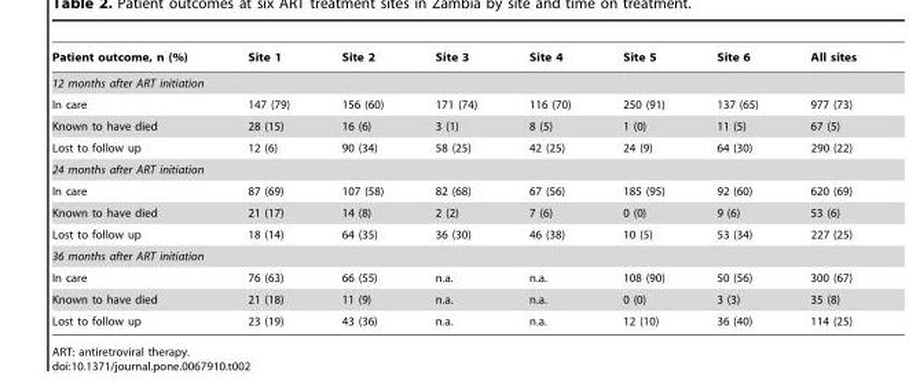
<table><thead><tr><td>Patient outcome, n (%)</td><td>Site 1</td><td>Site 2</td><td>Site 3</td><td>Site 4</td><td>Site 5</td><td>Site 6</td><td>All sites</td></tr></thead><tbody><tr><td colspan="8">12 months after ART initiation</td></tr><tr><td>In care</td><td>147 (79)</td><td>156 (60)</td><td>171 (74)</td><td>116 (70)</td><td>250 (91)</td><td>137 (65)</td><td>977 (73)</td></tr><tr><td>Known to have died</td><td>28 (15)</td><td>16 (6)</td><td>3 (1)</td><td>8 (5)</td><td>1 (0)</td><td>11 (5)</td><td>67 (5)</td></tr><tr><td>Lost to follow up</td><td>12 (6)</td><td>90 (34)</td><td>58 (25)</td><td>42 (25)</td><td>24 (9)</td><td>64 (30)</td><td>290 (22)</td></tr><tr><td colspan="8">24 months after ART initiation</td></tr><tr><td>In care</td><td>87 (69)</td><td>107 (58)</td><td>82 (68)</td><td>67 (56)</td><td>185 (95)</td><td>92 (60)</td><td>620 (69)</td></tr><tr><td>Known to have died</td><td>21 (17)</td><td>14 (8)</td><td>2 (2)</td><td>7 (6)</td><td>0 (0)</td><td>9 (6)</td><td>53 (6)</td></tr><tr><td>Lost to follow up</td><td>18 (14)</td><td>64 (35)</td><td>36 (30)</td><td>46 (38)</td><td>10 (5)</td><td>53 (34)</td><td>227 (25)</td></tr><tr><td colspan="8">36 months after ART initiation</td></tr><tr><td>In care</td><td>76 (63)</td><td>66 (55)</td><td>n.a.</td><td>n.a.</td><td>108 (90)</td><td>50 (56)</td><td>300 (67)</td></tr><tr><td>Known to have died</td><td>21 (18)</td><td>11 (9)</td><td>n.a.</td><td>n.a.</td><td>0 (0)</td><td>3 (3)</td><td>35 (8)</td></tr><tr><td>Lost to follow up</td><td>23 (19)</td><td>43 (36)</td><td>n.a.</td><td>n.a.</td><td>12 (10)</td><td>36 (40)</td><td>114 (25)</td></tr></tbody></table>